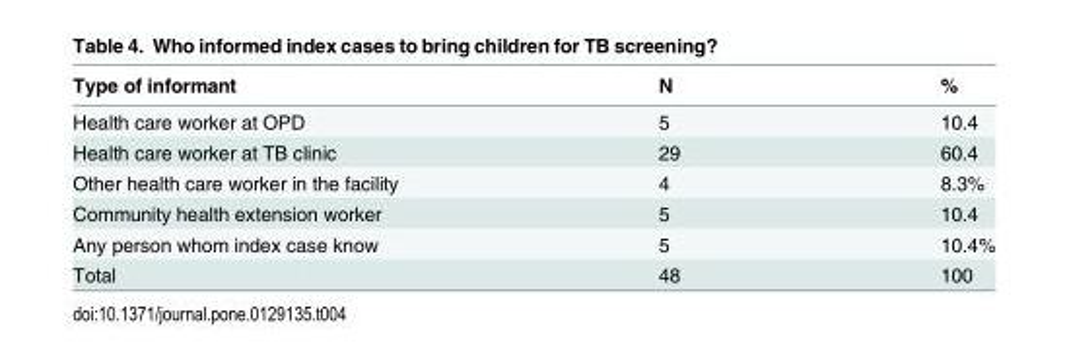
<table><thead><tr><td>Type of informant</td><td>N</td><td>%</td></tr></thead><tbody><tr><td>Health care worker at OPD</td><td>5</td><td>10.4</td></tr><tr><td>Health care worker at TB clinic</td><td>29</td><td>60.4</td></tr><tr><td>Other health care worker in the facility</td><td>4</td><td>8.3%</td></tr><tr><td>Community health extension worker</td><td>5</td><td>10.4</td></tr><tr><td>Any person whom index case know</td><td>5</td><td>10.4%</td></tr><tr><td>Total</td><td>48</td><td>100</td></tr></tbody></table>